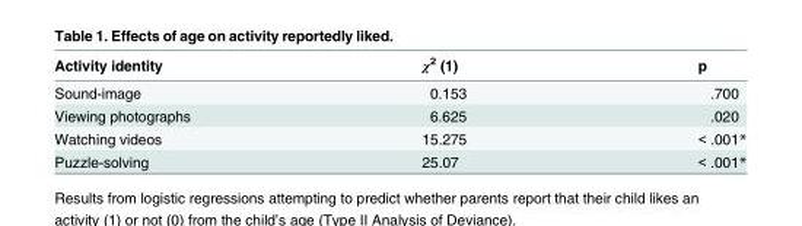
<table><thead><tr><td>Activity identity</td><td>χ<sup>2</sup> (1)</td><td>p</td></tr></thead><tbody><tr><td>Sound-image</td><td>0.153</td><td>.700</td></tr><tr><td>Viewing photographs</td><td>6.625</td><td>.020</td></tr><tr><td>Watching videos</td><td>15.275</td><td>&lt; .001*</td></tr><tr><td>Puzzle-solving</td><td>25.07</td><td>&lt; .001*</td></tr></tbody></table>